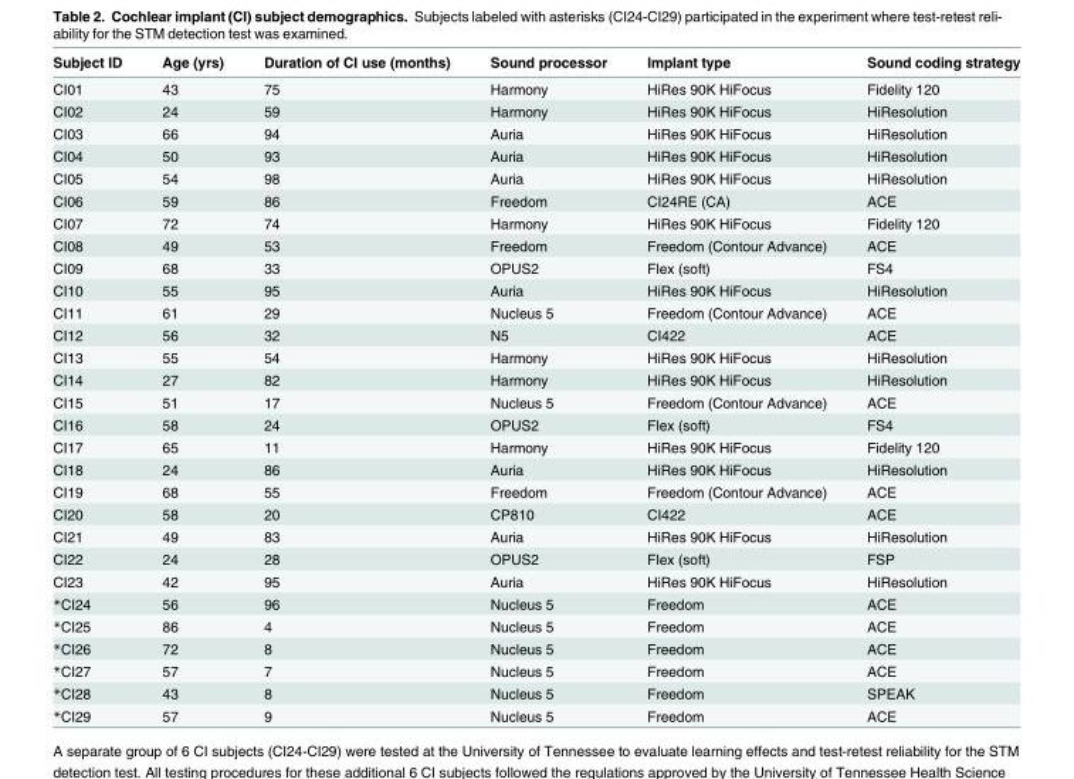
<table><thead><tr><td>Subject ID</td><td>Age (yrs)</td><td>Duration of CI use (months)</td><td>Sound processor</td><td>Implant type</td><td>Sound coding strategy</td></tr></thead><tbody><tr><td>CI01</td><td>43</td><td>75</td><td>Harmony</td><td>HiRes 90K HiFocus</td><td>Fidelity 120</td></tr><tr><td>CI02</td><td>24</td><td>59</td><td>Harmony</td><td>HiRes 90K HiFocus</td><td>HiResolution</td></tr><tr><td>CI03</td><td>66</td><td>94</td><td>Auria</td><td>HiRes 90K HiFocus</td><td>HiResolution</td></tr><tr><td>CI04</td><td>50</td><td>93</td><td>Auria</td><td>HiRes 90K HiFocus</td><td>HiResolution</td></tr><tr><td>CI05</td><td>54</td><td>98</td><td>Auria</td><td>HiRes 90K HiFocus</td><td>HiResolution</td></tr><tr><td>CI06</td><td>59</td><td>86</td><td>Freedom</td><td>CI24RE (CA)</td><td>ACE</td></tr><tr><td>CI07</td><td>72</td><td>74</td><td>Harmony</td><td>HiRes 90K HiFocus</td><td>Fidelity 120</td></tr><tr><td>CI08</td><td>49</td><td>53</td><td>Freedom</td><td>Freedom (Contour Advance)</td><td>ACE</td></tr><tr><td>CI09</td><td>68</td><td>33</td><td>OPUS2</td><td>Flex (soft)</td><td>FS4</td></tr><tr><td>CI10</td><td>55</td><td>95</td><td>Auria</td><td>HiRes 90K HiFocus</td><td>HiResolution</td></tr><tr><td>CI11</td><td>61</td><td>29</td><td>Nucleus 5</td><td>Freedom (Contour Advance)</td><td>ACE</td></tr><tr><td>CI12</td><td>56</td><td>32</td><td>N5</td><td>CI422</td><td>ACE</td></tr><tr><td>CI13</td><td>55</td><td>54</td><td>Harmony</td><td>HiRes 90K HiFocus</td><td>HiResolution</td></tr><tr><td>CI14</td><td>27</td><td>82</td><td>Harmony</td><td>HiRes 90K HiFocus</td><td>HiResolution</td></tr><tr><td>CI15</td><td>51</td><td>17</td><td>Nucleus 5</td><td>Freedom (Contour Advance)</td><td>ACE</td></tr><tr><td>CI16</td><td>58</td><td>24</td><td>OPUS2</td><td>Flex (soft)</td><td>FS4</td></tr><tr><td>CI17</td><td>65</td><td>11</td><td>Harmony</td><td>HiRes 90K HiFocus</td><td>Fidelity 120</td></tr><tr><td>CI18</td><td>24</td><td>86</td><td>Auria</td><td>HiRes 90K HiFocus</td><td>HiResolution</td></tr><tr><td>CI19</td><td>68</td><td>55</td><td>Freedom</td><td>Freedom (Contour Advance)</td><td>ACE</td></tr><tr><td>CI20</td><td>58</td><td>20</td><td>CP810</td><td>CI422</td><td>ACE</td></tr><tr><td>CI21</td><td>49</td><td>83</td><td>Auria</td><td>HiRes 90K HiFocus</td><td>HiResolution</td></tr><tr><td>CI22</td><td>24</td><td>28</td><td>OPUS2</td><td>Flex (soft)</td><td>FSP</td></tr><tr><td>CI23</td><td>42</td><td>95</td><td>Auria</td><td>HiRes 90K HiFocus</td><td>HiResolution</td></tr><tr><td>*CI24</td><td>56</td><td>96</td><td>Nucleus 5</td><td>Freedom</td><td>ACE</td></tr><tr><td>*CI25</td><td>86</td><td>4</td><td>Nucleus 5</td><td>Freedom</td><td>ACE</td></tr><tr><td>*CI26</td><td>72</td><td>8</td><td>Nucleus 5</td><td>Freedom</td><td>ACE</td></tr><tr><td>*CI27</td><td>57</td><td>7</td><td>Nucleus 5</td><td>Freedom</td><td>ACE</td></tr><tr><td>*CI28</td><td>43</td><td>8</td><td>Nucleus 5</td><td>Freedom</td><td>SPEAK</td></tr><tr><td>*CI29</td><td>57</td><td>9</td><td>Nucleus 5</td><td>Freedom</td><td>ACE</td></tr></tbody></table>